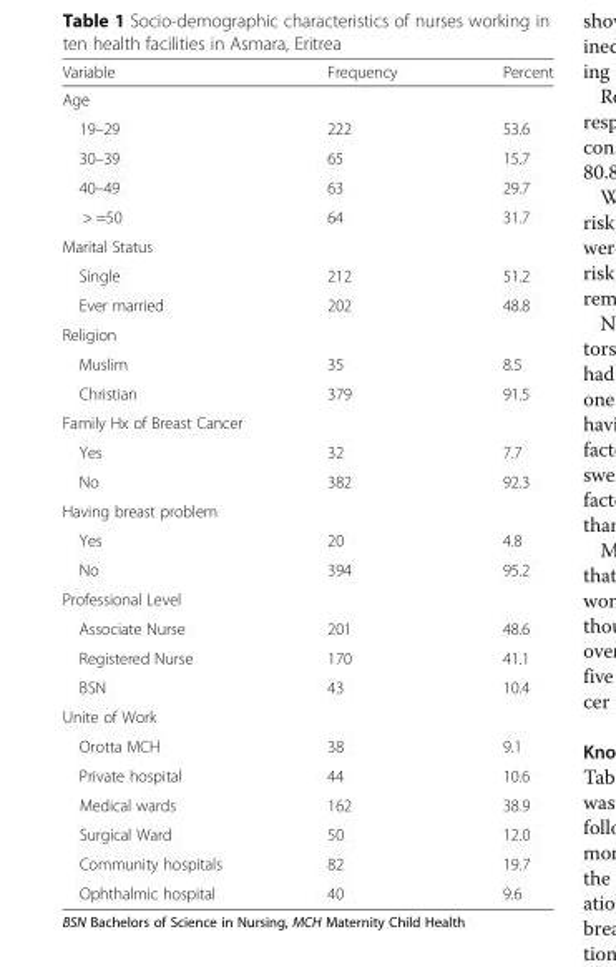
<table><thead><tr><td>Variable</td><td>Frequency</td><td>Percent</td></tr></thead><tbody><tr><td colspan="3">Age</td></tr><tr><td>19–29</td><td>222</td><td>53.6</td></tr><tr><td>30–39</td><td>65</td><td>15.7</td></tr><tr><td>40–49</td><td>63</td><td>29.7</td></tr><tr><td>&gt; =50</td><td>64</td><td>31.7</td></tr><tr><td colspan="3">Marital Status</td></tr><tr><td>Single</td><td>212</td><td>51.2</td></tr><tr><td>Ever married</td><td>202</td><td>48.8</td></tr><tr><td colspan="3">Religion</td></tr><tr><td>Muslim</td><td>35</td><td>8.5</td></tr><tr><td>Christian</td><td>379</td><td>91.5</td></tr><tr><td colspan="3">Family Hx of Breast Cancer</td></tr><tr><td>Yes</td><td>32</td><td>7.7</td></tr><tr><td>No</td><td>382</td><td>92.3</td></tr><tr><td colspan="3">Having breast problem</td></tr><tr><td>Yes</td><td>20</td><td>4.8</td></tr><tr><td>No</td><td>394</td><td>95.2</td></tr><tr><td colspan="3">Professional Level</td></tr><tr><td>Associate Nurse</td><td>201</td><td>48.6</td></tr><tr><td>Registered Nurse</td><td>170</td><td>41.1</td></tr><tr><td>BSN</td><td>43</td><td>10.4</td></tr><tr><td colspan="3">Unite of Work</td></tr><tr><td>Orotta MCH</td><td>38</td><td>9.1</td></tr><tr><td>Private hospital</td><td>44</td><td>10.6</td></tr><tr><td>Medical wards</td><td>162</td><td>38.9</td></tr><tr><td>Surgical Ward</td><td>50</td><td>12.0</td></tr><tr><td>Community hospitals</td><td>82</td><td>19.7</td></tr><tr><td>Ophthalmic hospital</td><td>40</td><td>9.6</td></tr></tbody></table>